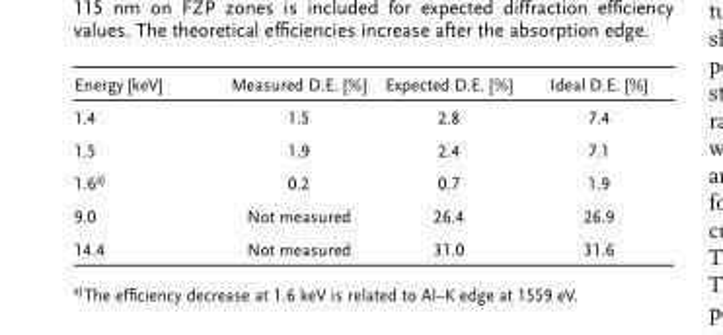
<table><thead><tr><td>Energy [keV]</td><td>Measured D.E. [%]</td><td>Expected D.E. [%]</td><td>Ideal D.E. [%]</td></tr></thead><tbody><tr><td>1.4</td><td>1.5</td><td>2.8</td><td>7.4</td></tr><tr><td>1.5</td><td>1.9</td><td>2.4</td><td>7.1</td></tr><tr><td>1.6a)</td><td>0.2</td><td>0.7</td><td>1.9</td></tr><tr><td>9.0</td><td>Not measured</td><td>26.4</td><td>26.9</td></tr><tr><td>14.4</td><td>Not measured</td><td>31.0</td><td>31.6</td></tr></tbody></table>